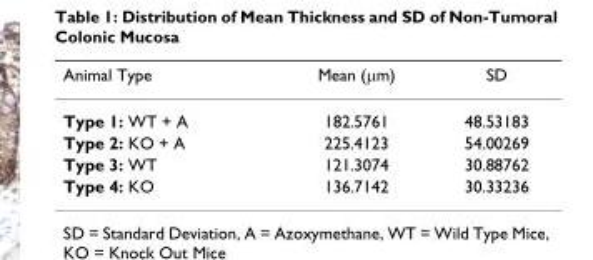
<table><thead><tr><td>Animal Type</td><td>Mean (μm)</td><td>SD</td></tr></thead><tbody><tr><td>Type 1: WT + A</td><td>182.5761</td><td>48.53183</td></tr><tr><td>Type 2: KO + A</td><td>225.4123</td><td>54.00269</td></tr><tr><td>Type 3: WT</td><td>121.3074</td><td>30.88762</td></tr><tr><td>Type 4: KO</td><td>136.7142</td><td>30.33236</td></tr></tbody></table>